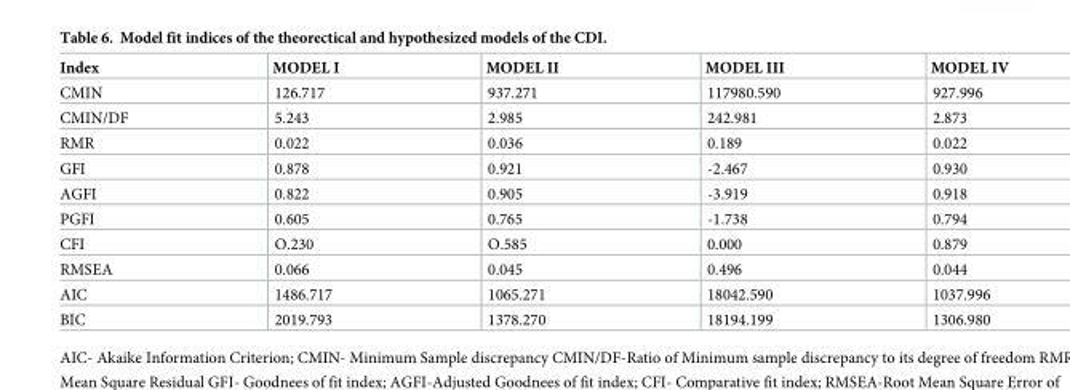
<table><thead><tr><td>Index</td><td>MODEL I</td><td>MODEL II</td><td>MODEL III</td><td>MODEL IV</td></tr></thead><tbody><tr><td>CMIN</td><td>126.717</td><td>937.271</td><td>117980.590</td><td>927.996</td></tr><tr><td>CMIN/DF</td><td>5.243</td><td>2.985</td><td>242.981</td><td>2.873</td></tr><tr><td>RMR</td><td>0.022</td><td>0.036</td><td>0.189</td><td>0.022</td></tr><tr><td>GFI</td><td>0.878</td><td>0.921</td><td>-2.467</td><td>0.930</td></tr><tr><td>AGFI</td><td>0.822</td><td>0.905</td><td>-3.919</td><td>0.918</td></tr><tr><td>PGFI</td><td>0.605</td><td>0.765</td><td>-1.738</td><td>0.794</td></tr><tr><td>CFI</td><td>O.230</td><td>O.585</td><td>0.000</td><td>0.879</td></tr><tr><td>RMSEA</td><td>0.066</td><td>0.045</td><td>0.496</td><td>0.044</td></tr><tr><td>AIC</td><td>1486.717</td><td>1065.271</td><td>18042.590</td><td>1037.996</td></tr><tr><td>BIC</td><td>2019.793</td><td>1378.270</td><td>18194.199</td><td>1306.980</td></tr></tbody></table>